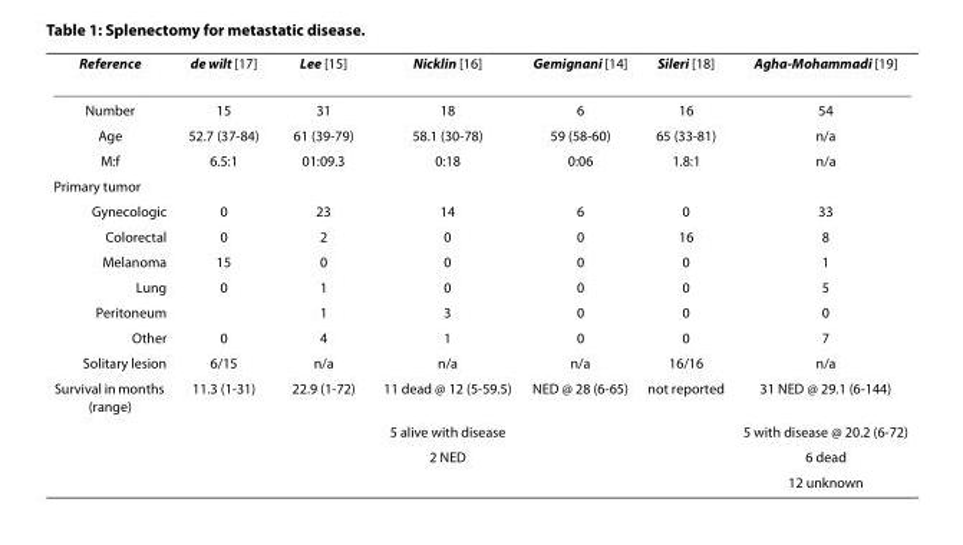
<table><thead><tr><td>Reference</td><td>de wilt [17]</td><td>Lee [15]</td><td>Nicklin [16]</td><td>Gemignani [14]</td><td>Sileri [18]</td><td>Agha-Mohammadi [19]</td></tr></thead><tbody><tr><td>Number</td><td>15</td><td>31</td><td>18</td><td>6</td><td>16</td><td>54</td></tr><tr><td>Age</td><td>52.7 (37-84)</td><td>61 (39-79)</td><td>58.1 (30-78)</td><td>59 (58-60)</td><td>65 (33-81)</td><td>n/a</td></tr><tr><td>M:f</td><td>6.5:1</td><td>01:09.3</td><td>0:18</td><td>0:06</td><td>1.8:1</td><td>n/a</td></tr><tr><td colspan="7">Primary tumor</td></tr><tr><td>Gynecologic</td><td>0</td><td>23</td><td>14</td><td>6</td><td>0</td><td>33</td></tr><tr><td>Colorectal</td><td>0</td><td>2</td><td>0</td><td>0</td><td>16</td><td>8</td></tr><tr><td>Melanoma</td><td>15</td><td>0</td><td>0</td><td>0</td><td>0</td><td>1</td></tr><tr><td>Lung</td><td>0</td><td>1</td><td>0</td><td>0</td><td>0</td><td>5</td></tr><tr><td>Peritoneum</td><td></td><td>1</td><td>3</td><td>0</td><td>0</td><td>0</td></tr><tr><td>Other</td><td>0</td><td>4</td><td>1</td><td>0</td><td>0</td><td>7</td></tr><tr><td>Solitary lesion</td><td>6/15</td><td>n/a</td><td>n/a</td><td>n/a</td><td>16/16</td><td>n/a</td></tr><tr><td rowspan="4">Survival in months (range)</td><td>11.3 (1-31)</td><td>22.9 (1-72)</td><td>11 dead @ 12 (5-59.5)</td><td>NED @ 28 (6-65)</td><td>not reported</td><td>31 NED @ 29.1 (6-144)</td></tr><tr><td></td><td></td><td>5 alive with disease</td><td></td><td></td><td>5 with disease @ 20.2 (6-72)</td></tr><tr><td></td><td></td><td>2 NED</td><td></td><td></td><td>6 dead</td></tr><tr><td></td><td></td><td></td><td></td><td></td><td>12 unknown</td></tr></tbody></table>